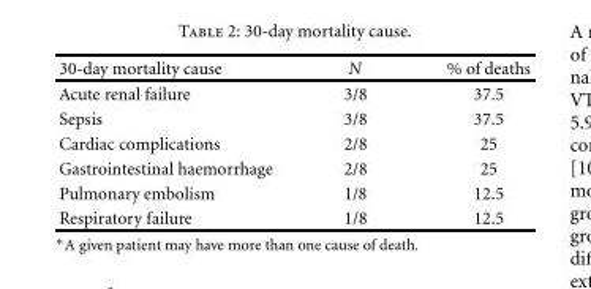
<table><thead><tr><td>30-day mortality cause</td><td>N</td><td>% of deaths</td></tr></thead><tbody><tr><td>Acute renal failure</td><td>3/8</td><td>37.5</td></tr><tr><td>Sepsis</td><td>3/8</td><td>37.5</td></tr><tr><td>Cardiac complications</td><td>2/8</td><td>25</td></tr><tr><td>Gastrointestinal haemorrhage</td><td>2/8</td><td>25</td></tr><tr><td>Pulmonary embolism</td><td>1/8</td><td>12.5</td></tr><tr><td>Respiratory failure</td><td>1/8</td><td>12.5</td></tr></tbody></table>